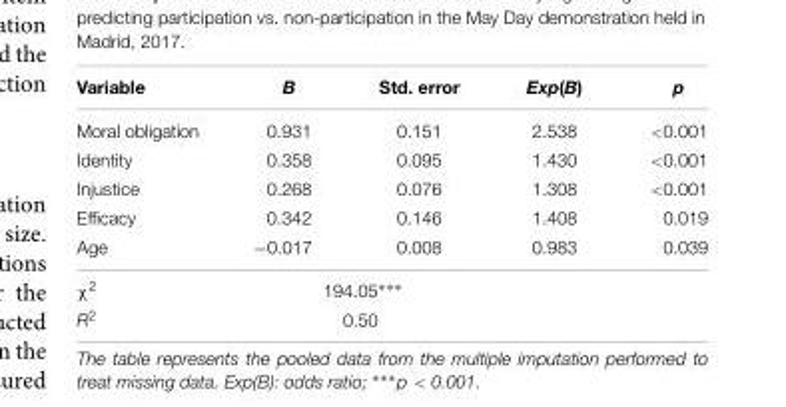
<table><thead><tr><td>Variable</td><td>B</td><td>Std. error</td><td>Exp(B)</td><td>p</td></tr></thead><tbody><tr><td>Moral obligation</td><td>0.931</td><td>0.151</td><td>2.538</td><td>&lt;0.001</td></tr><tr><td>Identity</td><td>0.358</td><td>0.095</td><td>1.430</td><td>&lt;0.001</td></tr><tr><td>Injustice</td><td>0.268</td><td>0.076</td><td>1.308</td><td>&lt;0.001</td></tr><tr><td>Efficacy</td><td>0.342</td><td>0.146</td><td>1.408</td><td>0.019</td></tr><tr><td>Age</td><td>−0.017</td><td>0.008</td><td>0.983</td><td>0.039</td></tr><tr><td>χ<sup>2</sup></td><td colspan="2">194.05∗∗∗</td><td colspan="2"></td></tr><tr><td>R<sup>2</sup></td><td colspan="2">0.50</td><td colspan="2"></td></tr></tbody></table>